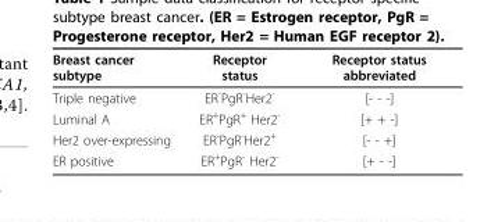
<table><thead><tr><td>Breast cancer subtype</td><td>Receptor status</td><td>Receptor status abbreviated</td></tr></thead><tbody><tr><td>Triple negative</td><td>ER<sup>-</sup>PgR<sup>-</sup>Her2<sup>-</sup></td><td>[- - -]</td></tr><tr><td>Luminal A</td><td>ER<sup>+</sup>PgR<sup>+</sup> Her2<sup>-</sup></td><td>[+ + -]</td></tr><tr><td>Her2 over-expressing</td><td>ER<sup>-</sup>PgR<sup>-</sup>Her2<sup>+</sup></td><td>[- - +]</td></tr><tr><td>ER positive</td><td>ER<sup>+</sup>PgR<sup>-</sup> Her2<sup>-</sup></td><td>[+ - -]</td></tr></tbody></table>